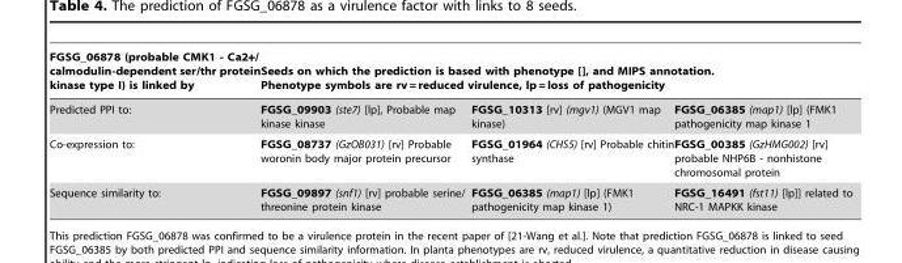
<table><thead><tr><td rowspan="2">FGSG_06878 (probable CMK1 - Ca2+/ calmodulin-dependent ser/thr protein kinase type I) is linked by Predicted PPI to:</td><td colspan="3">Seeds on which the prediction is based with phenotype [], and MIPS annotation. Phenotype symbols are rv = reduced virulence, lp = loss of pathogenicity</td></tr><tr><td>FGSG_09903 (ste7) [lp], Probable map kinase kinase</td><td>FGSG_10313 [rv] (mgv1) (MGV1 map kinase)</td><td>FGSG_06385 (map1) [lp] (FMK1 pathogenicity map kinase 1</td></tr></thead><tbody><tr><td>Co-expression to:</td><td>FGSG_08737 (GzOB031) [rv] Probable woronin body major protein precursor</td><td>FGSG_01964 (CHS5) [rv] Probable chitin synthase</td><td>FGSG_00385 (GzHMG002) [rv] probable NHP6B - nonhistone chromosomal protein</td></tr><tr><td>Sequence similarity to:</td><td>FGSG_09897 (snf1) [rv] probable serine/ threonine protein kinase</td><td>FGSG_06385 (map1) [lp] (FMK1 pathogenicity map kinase 1)</td><td>FGSG_16491 (fst11) [lp]] related to NRC-1 MAPKK kinase</td></tr></tbody></table>